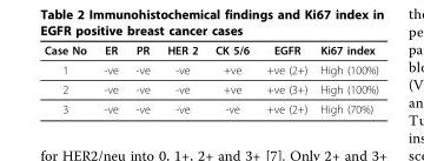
<table><thead><tr><td>Case No</td><td>ER</td><td>PR</td><td>HER 2</td><td>CK 5/6</td><td>EGFR</td><td>Ki67 index</td></tr></thead><tbody><tr><td>1</td><td>-ve</td><td>-ve</td><td>-ve</td><td>+ve</td><td>+ve (2+)</td><td>High (100%)</td></tr><tr><td>2</td><td>-ve</td><td>-ve</td><td>-ve</td><td>+ve</td><td>+ve (3+)</td><td>High (100%)</td></tr><tr><td>3</td><td>-ve</td><td>-ve</td><td>-ve</td><td>-ve</td><td>+ve (2+)</td><td>High (70%)</td></tr></tbody></table>